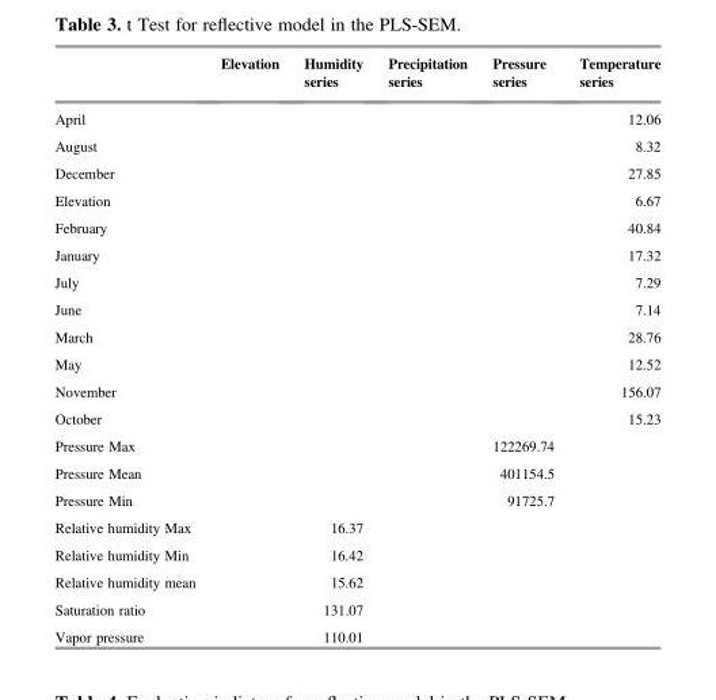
<table><thead><tr><td></td><td>Elevation</td><td>Humidity series</td><td>Precipitation series</td><td>Pressure series</td><td>Temperature series</td></tr></thead><tbody><tr><td>April</td><td></td><td></td><td></td><td></td><td>12.06</td></tr><tr><td>August</td><td></td><td></td><td></td><td></td><td>8.32</td></tr><tr><td>December</td><td></td><td></td><td></td><td></td><td>27.85</td></tr><tr><td>Elevation</td><td></td><td></td><td></td><td></td><td>6.67</td></tr><tr><td>February</td><td></td><td></td><td></td><td></td><td>40.84</td></tr><tr><td>January</td><td></td><td></td><td></td><td></td><td>17.32</td></tr><tr><td>July</td><td></td><td></td><td></td><td></td><td>7.29</td></tr><tr><td>June</td><td></td><td></td><td></td><td></td><td>7.14</td></tr><tr><td>March</td><td></td><td></td><td></td><td></td><td>28.76</td></tr><tr><td>May</td><td></td><td></td><td></td><td></td><td>12.52</td></tr><tr><td>November</td><td></td><td></td><td></td><td></td><td>156.07</td></tr><tr><td>October</td><td></td><td></td><td></td><td></td><td>15.23</td></tr><tr><td>Pressure Max</td><td></td><td></td><td></td><td>122269.74</td><td></td></tr><tr><td>Pressure Mean</td><td></td><td></td><td></td><td>401154.5</td><td></td></tr><tr><td>Pressure Min</td><td></td><td></td><td></td><td>91725.7</td><td></td></tr><tr><td>Relative humidity Max</td><td></td><td>16.37</td><td></td><td></td><td></td></tr><tr><td>Relative humidity Min</td><td></td><td>16.42</td><td></td><td></td><td></td></tr><tr><td>Relative humidity mean</td><td></td><td>15.62</td><td></td><td></td><td></td></tr><tr><td>Saturation ratio</td><td></td><td>131.07</td><td></td><td></td><td></td></tr><tr><td>Vapor pressure</td><td></td><td>110.01</td><td></td><td></td><td></td></tr></tbody></table>